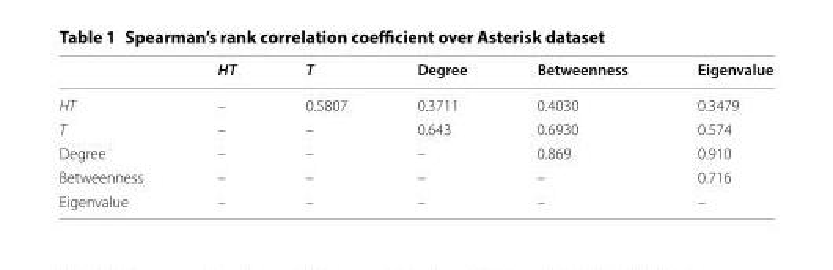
<table><thead><tr><td></td><td>HT</td><td>T</td><td>Degree</td><td>Betweenness</td><td>Eigenvalue</td></tr></thead><tbody><tr><td>HT</td><td>–</td><td>0.5807</td><td>0.3711</td><td>0.4030</td><td>0.3479</td></tr><tr><td>T</td><td>–</td><td>–</td><td>0.643</td><td>0.6930</td><td>0.574</td></tr><tr><td>Degree</td><td>–</td><td>–</td><td>–</td><td>0.869</td><td>0.910</td></tr><tr><td>Betweenness</td><td>–</td><td>–</td><td>–</td><td>–</td><td>0.716</td></tr><tr><td>Eigenvalue</td><td>–</td><td>–</td><td>–</td><td>–</td><td>–</td></tr></tbody></table>